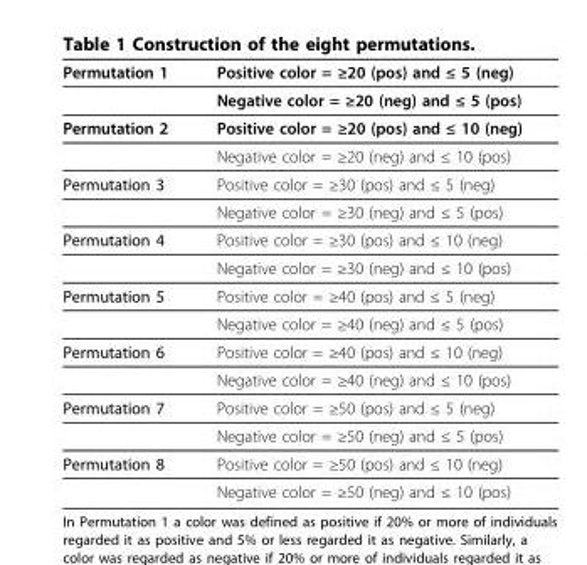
<table><thead><tr><td>Permutation 1</td><td>Positive color = ≥20 (pos) and ≤ 5 (neg)</td></tr></thead><tbody><tr><td></td><td>Negative color = ≥20 (neg) and ≤ 5 (pos)</td></tr><tr><td rowspan="2">Permutation 2</td><td>Positive color = ≥20 (pos) and ≤ 10 (neg)</td></tr><tr><td>Negative color = ≥20 (neg) and ≤ 10 (pos)</td></tr><tr><td rowspan="2">Permutation 3</td><td>Positive color = ≥30 (pos) and ≤ 5 (neg)</td></tr><tr><td>Negative color = ≥30 (neg) and ≤ 5 (pos)</td></tr><tr><td rowspan="2">Permutation 4</td><td>Positive color = ≥30 (pos) and ≤ 10 (neg)</td></tr><tr><td>Negative color = ≥30 (neg) and ≤ 10 (pos)</td></tr><tr><td rowspan="2">Permutation 5</td><td>Positive color = ≥40 (pos) and ≤ 5 (neg)</td></tr><tr><td>Negative color = ≥40 (neg) and ≤ 5 (pos)</td></tr><tr><td rowspan="2">Permutation 6</td><td>Positive color = ≥40 (pos) and ≤ 10 (neg)</td></tr><tr><td>Negative color = ≥40 (neg) and ≤ 10 (pos)</td></tr><tr><td rowspan="2">Permutation 7</td><td>Positive color = ≥50 (pos) and ≤ 5 (neg)</td></tr><tr><td>Negative color = ≥50 (neg) and ≤ 5 (pos)</td></tr><tr><td rowspan="2">Permutation 8</td><td>Positive color = ≥50 (pos) and ≤ 10 (neg)</td></tr><tr><td>Negative color = ≥50 (neg) and ≤ 10 (pos)</td></tr></tbody></table>